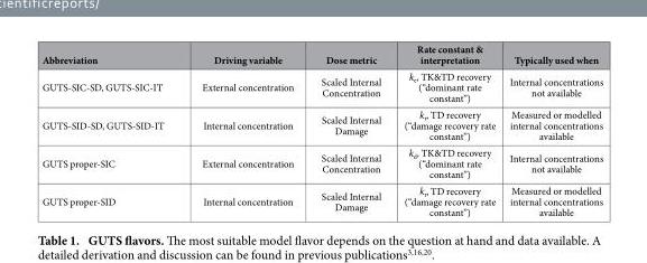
<table><thead><tr><td>Abbreviation</td><td>Driving variable</td><td>Dose metric</td><td>Rate constant &amp; interpretation</td><td>Typically used when</td></tr></thead><tbody><tr><td>GUTS-SIC-SD, GUTS-SIC-IT</td><td>External concentration</td><td>Scaled Internal Concentration</td><td>k<sub>e</sub>, TK&amp;TD recovery (“dominant rate constant”)</td><td>Internal concentrations not available</td></tr><tr><td>GUTS-SID-SD, GUTS-SID-IT</td><td>Internal concentration</td><td>Scaled Internal Damage</td><td>k<sub>r</sub>, TD recovery (“damage recovery rate constant”)</td><td>Measured or modelled internal concentrations available</td></tr><tr><td>GUTS proper-SIC</td><td>External concentration</td><td>Scaled Internal Concentration</td><td>k<sub>d</sub>, TK&amp;TD recovery (“dominant rate constant”)</td><td>Internal concentrations not available</td></tr><tr><td>GUTS proper-SID</td><td>Internal concentration</td><td>Scaled Internal Damage</td><td>k<sub>r</sub>, TD recovery (“damage recovery rate constant”)</td><td>Measured or modelled internal concentrations available</td></tr></tbody></table>